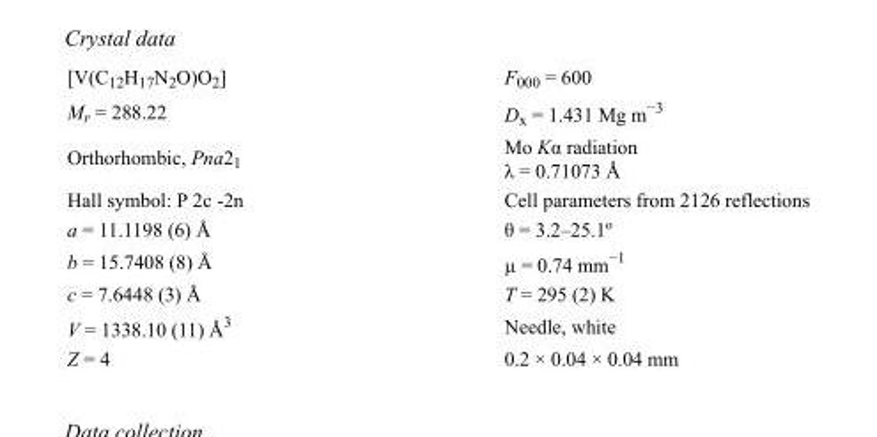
<table><tbody><tr><td>[V(C<sub>12</sub>H<sub>17</sub>N<sub>2</sub>O)O<sub>2</sub>]</td><td>F000 = 600</td></tr><tr><td>M<sub>r</sub> = 288.22</td><td>D<sub>x</sub> = 1.431 Mg m<sup>−3</sup></td></tr><tr><td>Orthorhombic, Pna2<sub>1</sub></td><td>Mo Kα radiation λ = 0.71073 Å</td></tr><tr><td>Hall symbol: P 2c -2n</td><td>Cell parameters from 2126 reflections</td></tr><tr><td>a = 11.1198 (6) Å</td><td>θ = 3.2–25.1º</td></tr><tr><td>b = 15.7408 (8) Å</td><td>µ = 0.74 mm<sup>−1</sup></td></tr><tr><td>c = 7.6448 (3) Å</td><td>T = 295 (2) K</td></tr><tr><td>V = 1338.10 (11) Å<sup>3</sup></td><td>Needle, white</td></tr><tr><td>Z = 4</td><td>0.2 × 0.04 × 0.04 mm</td></tr></tbody></table>